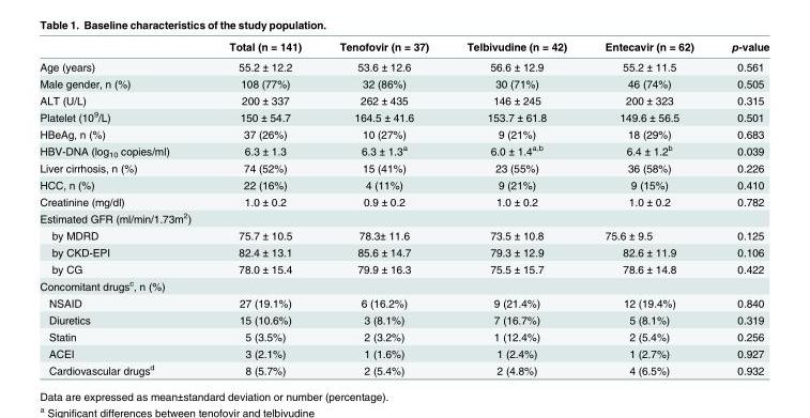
<table><thead><tr><td></td><td>Total (n = 141)</td><td>Tenofovir (n = 37)</td><td>Telbivudine (n = 42)</td><td>Entecavir (n = 62)</td><td>p-value</td></tr></thead><tbody><tr><td>Age (years)</td><td>55.2 ± 12.2</td><td>53.6 ± 12.6</td><td>56.6 ± 12.9</td><td>55.2 ± 11.5</td><td>0.561</td></tr><tr><td>Male gender, n (%)</td><td>108 (77%)</td><td>32 (86%)</td><td>30 (71%)</td><td>46 (74%)</td><td>0.505</td></tr><tr><td>ALT (U/L)</td><td>200 ± 337</td><td>262 ± 435</td><td>146 ± 245</td><td>200 ± 323</td><td>0.315</td></tr><tr><td>Platelet (10<sup>9</sup>/L)</td><td>150 ± 54.7</td><td>164.5 ± 41.6</td><td>153.7 ± 61.8</td><td>149.6 ± 56.5</td><td>0.501</td></tr><tr><td>HBeAg, n (%)</td><td>37 (26%)</td><td>10 (27%)</td><td>9 (21%)</td><td>18 (29%)</td><td>0.683</td></tr><tr><td>HBV-DNA (log<sub>10</sub> copies/ml)</td><td>6.3 ± 1.3</td><td>6.3 ± 1.3<sup>a</sup></td><td>6.0 ± 1.4<sup>a,b</sup></td><td>6.4 ± 1.2<sup>b</sup></td><td>0.039</td></tr><tr><td>Liver cirrhosis, n (%)</td><td>74 (52%)</td><td>15 (41%)</td><td>23 (55%)</td><td>36 (58%)</td><td>0.226</td></tr><tr><td>HCC, n (%)</td><td>22 (16%)</td><td>4 (11%)</td><td>9 (21%)</td><td>9 (15%)</td><td>0.410</td></tr><tr><td>Creatinine (mg/dl)</td><td>1.0 ± 0.2</td><td>0.9 ± 0.2</td><td>1.0 ± 0.2</td><td>1.0 ± 0.2</td><td>0.782</td></tr><tr><td colspan="6">Estimated GFR (ml/min/1.73m<sup>2</sup>)</td></tr><tr><td>by MDRD</td><td>75.7 ± 10.5</td><td>78.3± 11.6</td><td>73.5 ± 10.8</td><td>75.6 ± 9.5</td><td>0.125</td></tr><tr><td>by CKD-EPI</td><td>82.4 ± 13.1</td><td>85.6 ± 14.7</td><td>79.3 ± 12.9</td><td>82.6 ± 11.9</td><td>0.106</td></tr><tr><td>by CG</td><td>78.0 ± 15.4</td><td>79.9 ± 16.3</td><td>75.5 ± 15.7</td><td>78.6 ± 14.8</td><td>0.422</td></tr><tr><td colspan="6">Concomitant drugs<sup>c</sup>, n (%)</td></tr><tr><td>NSAID</td><td>27 (19.1%)</td><td>6 (16.2%)</td><td>9 (21.4%)</td><td>12 (19.4%)</td><td>0.840</td></tr><tr><td>Diuretics</td><td>15 (10.6%)</td><td>3 (8.1%)</td><td>7 (16.7%)</td><td>5 (8.1%)</td><td>0.319</td></tr><tr><td>Statin</td><td>5 (3.5%)</td><td>2 (3.2%)</td><td>1 (12.4%)</td><td>2 (5.4%)</td><td>0.256</td></tr><tr><td>ACEI</td><td>3 (2.1%)</td><td>1 (1.6%)</td><td>1 (2.4%)</td><td>1 (2.7%)</td><td>0.927</td></tr><tr><td>Cardiovascular drugs<sup>d</sup></td><td>8 (5.7%)</td><td>2 (5.4%)</td><td>2 (4.8%)</td><td>4 (6.5%)</td><td>0.932</td></tr></tbody></table>